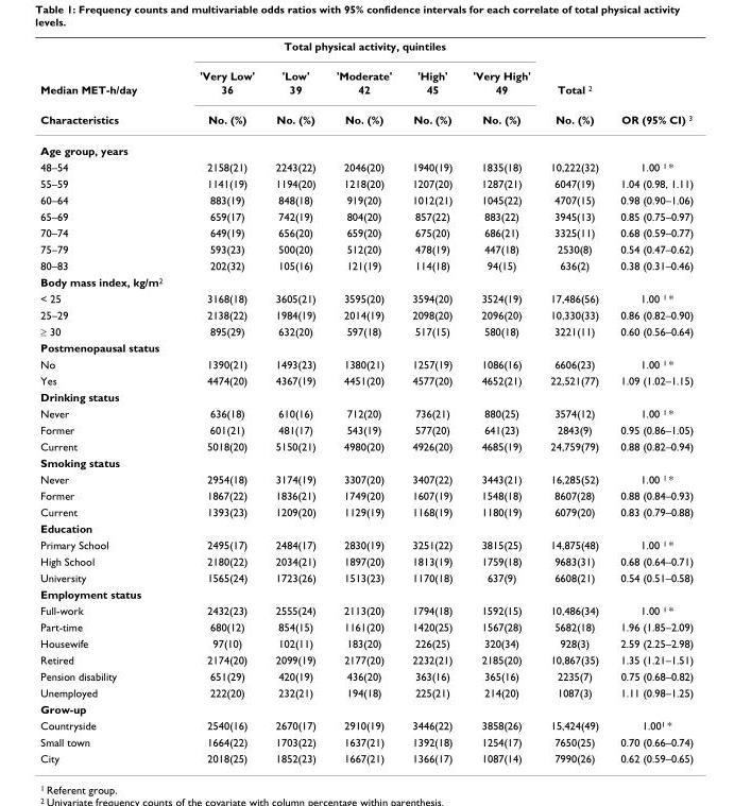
<table><thead><tr><td rowspan="4">Median MET-h/day Characteristics</td><td colspan="5">Total physical activity, quintiles</td><td rowspan="4">Total <sup>2</sup> No. (%)</td><td rowspan="4">OR (95% CI) <sup>3</sup></td></tr><tr><td rowspan="3">&#x27;Very Low&#x27; 36 No. (%)</td><td rowspan="3">&#x27;Low&#x27; 39 No. (%)</td><td rowspan="3">&#x27;Moderate&#x27; 42 No. (%)</td><td rowspan="3">&#x27;High&#x27; 45 No. (%)</td><td rowspan="3">&#x27;Very High&#x27; 49 No. (%)</td></tr><tr></tr><tr></tr></thead><tbody><tr><td colspan="8">Age group, years</td></tr><tr><td>48–54</td><td>2158(21)</td><td>2243(22)</td><td>2046(20)</td><td>1940(19)</td><td>1835(18)</td><td>10,222(32)</td><td>1.00 <sup>1</sup> *</td></tr><tr><td>55–59</td><td>1141(19)</td><td>1194(20)</td><td>1218(20)</td><td>1207(20)</td><td>1287(21)</td><td>6047(19)</td><td>1.04 (0.98, 1.11)</td></tr><tr><td>60–64</td><td>883(19)</td><td>848(18)</td><td>919(20)</td><td>1012(21)</td><td>1045(22)</td><td>4707(15)</td><td>0.98 (0.90–1.06)</td></tr><tr><td>65–69</td><td>659(17)</td><td>742(19)</td><td>804(20)</td><td>857(22)</td><td>883(22)</td><td>3945(13)</td><td>0.85 (0.75–0.97)</td></tr><tr><td>70–74</td><td>649(19)</td><td>656(20)</td><td>659(20)</td><td>675(20)</td><td>686(21)</td><td>3325(11)</td><td>0.68 (0.59–0.77)</td></tr><tr><td>75–79</td><td>593(23)</td><td>500(20)</td><td>512(20)</td><td>478(19)</td><td>447(18)</td><td>2530(8)</td><td>0.54 (0.47–0.62)</td></tr><tr><td>80–83</td><td>202(32)</td><td>105(16)</td><td>121(19)</td><td>114(18)</td><td>94(15)</td><td>636(2)</td><td>0.38 (0.31–0.46)</td></tr><tr><td colspan="8">Body mass index, kg/m<sup>2</sup></td></tr><tr><td>&lt; 25</td><td>3168(18)</td><td>3605(21)</td><td>3595(20)</td><td>3594(20)</td><td>3524(19)</td><td>17,486(56)</td><td>1.00 <sup>1</sup> *</td></tr><tr><td>25–29</td><td>2138(22)</td><td>1984(19)</td><td>2014(19)</td><td>2098(20)</td><td>2096(20)</td><td>10,330(33)</td><td>0.86 (0.82–0.90)</td></tr><tr><td>≥ 30</td><td>895(29)</td><td>632(20)</td><td>597(18)</td><td>517(15)</td><td>580(18)</td><td>3221(11)</td><td>0.60 (0.56–0.64)</td></tr><tr><td colspan="8">Postmenopausal status</td></tr><tr><td>No</td><td>1390(21)</td><td>1493(23)</td><td>1380(21)</td><td>1257(19)</td><td>1086(16)</td><td>6606(23)</td><td>1.00 <sup>1</sup> *</td></tr><tr><td>Yes</td><td>4474(20)</td><td>4367(19)</td><td>4451(20)</td><td>4577(20)</td><td>4652(21)</td><td>22,521(77)</td><td>1.09 (1.02–1.15)</td></tr><tr><td colspan="8">Drinking status</td></tr><tr><td>Never</td><td>636(18)</td><td>610(16)</td><td>712(20)</td><td>736(21)</td><td>880(25)</td><td>3574(12)</td><td>1.00 <sup>1</sup> *</td></tr><tr><td>Former</td><td>601(21)</td><td>481(17)</td><td>543(19)</td><td>577(20)</td><td>641(23)</td><td>2843(9)</td><td>0.95 (0.86–1.05)</td></tr><tr><td>Current</td><td>5018(20)</td><td>5150(21)</td><td>4980(20)</td><td>4926(20)</td><td>4685(19)</td><td>24,759(79)</td><td>0.88 (0.82–0.94)</td></tr><tr><td colspan="8">Smoking status</td></tr><tr><td>Never</td><td>2954(18)</td><td>3174(19)</td><td>3307(20)</td><td>3407(22)</td><td>3443(21)</td><td>16,285(52)</td><td>1.00 <sup>1</sup> *</td></tr><tr><td>Former</td><td>1867(22)</td><td>1836(21)</td><td>1749(20)</td><td>1607(19)</td><td>1548(18)</td><td>8607(28)</td><td>0.88 (0.84–0.93)</td></tr><tr><td>Current</td><td>1393(23)</td><td>1209(20)</td><td>1129(19)</td><td>1168(19)</td><td>1180(19)</td><td>6079(20)</td><td>0.83 (0.79–0.88)</td></tr><tr><td colspan="8">Education</td></tr><tr><td>Primary School</td><td>2495(17)</td><td>2484(17)</td><td>2830(19)</td><td>3251(22)</td><td>3815(25)</td><td>14,875(48)</td><td>1.00 <sup>1</sup> *</td></tr><tr><td>High School</td><td>2180(22)</td><td>2034(21)</td><td>1897(20)</td><td>1813(19)</td><td>1759(18)</td><td>9683(31)</td><td>0.68 (0.64–0.71)</td></tr><tr><td>University</td><td>1565(24)</td><td>1723(26)</td><td>1513(23)</td><td>1170(18)</td><td>637(9)</td><td>6608(21)</td><td>0.54 (0.51–0.58)</td></tr><tr><td colspan="8">Employment status</td></tr><tr><td>Full-work</td><td>2432(23)</td><td>2555(24)</td><td>2113(20)</td><td>1794(18)</td><td>1592(15)</td><td>10,486(34)</td><td>1.00 <sup>1</sup> *</td></tr><tr><td>Part-time</td><td>680(12)</td><td>854(15)</td><td>1161(20)</td><td>1420(25)</td><td>1567(28)</td><td>5682(18)</td><td>1.96 (1.85–2.09)</td></tr><tr><td>Housewife</td><td>97(10)</td><td>102(11)</td><td>183(20)</td><td>226(25)</td><td>320(34)</td><td>928(3)</td><td>2.59 (2.25–2.98)</td></tr><tr><td>Retired</td><td>2174(20)</td><td>2099(19)</td><td>2177(20)</td><td>2232(21)</td><td>2185(20)</td><td>10,867(35)</td><td>1.35 (1.21–1.51)</td></tr><tr><td>Pension disability</td><td>651(29)</td><td>420(19)</td><td>436(20)</td><td>363(16)</td><td>365(16)</td><td>2235(7)</td><td>0.75 (0.68–0.82)</td></tr><tr><td>Unemployed</td><td>222(20)</td><td>232(21)</td><td>194(18)</td><td>225(21)</td><td>214(20)</td><td>1087(3)</td><td>1.11 (0.98–1.25)</td></tr><tr><td colspan="8">Grow-up</td></tr><tr><td>Countryside</td><td>2540(16)</td><td>2670(17)</td><td>2910(19)</td><td>3446(22)</td><td>3858(26)</td><td>15,424(49)</td><td>1.00<sup>1</sup> *</td></tr><tr><td>Small town</td><td>1664(22)</td><td>1703(22)</td><td>1637(21)</td><td>1392(18)</td><td>1254(17)</td><td>7650(25)</td><td>0.70 (0.66–0.74)</td></tr><tr><td>City</td><td>2018(25)</td><td>1852(23)</td><td>1667(21)</td><td>1366(17)</td><td>1087(14)</td><td>7990(26)</td><td>0.62 (0.59–0.65)</td></tr></tbody></table>